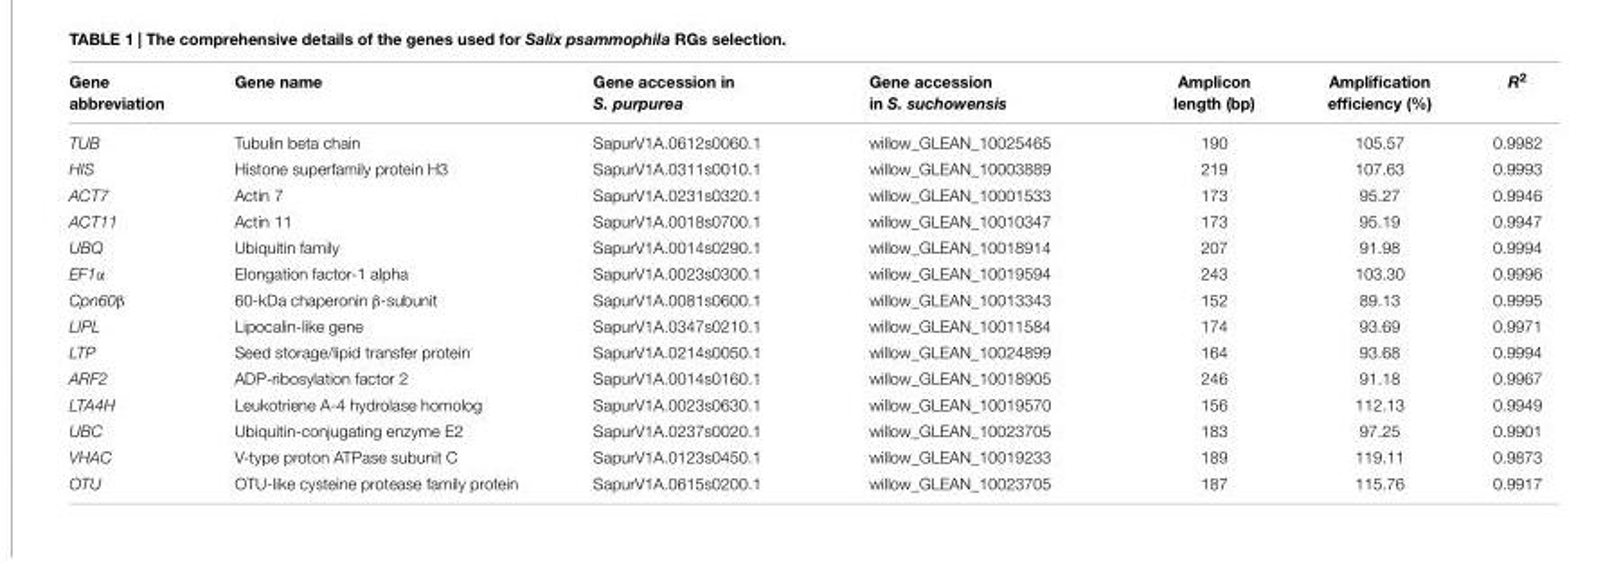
<table><thead><tr><td>Gene abbreviation</td><td>Gene name</td><td>Gene accession in S. purpurea</td><td>Gene accession in S. suchowensis</td><td>Amplicon length (bp)</td><td>Amplification efficiency (%)</td><td>R<sup>2</sup></td></tr></thead><tbody><tr><td>TUB</td><td>Tubulin beta chain</td><td>SapurV1A.0612s0060.1</td><td>willow_GLEAN_10025465</td><td>190</td><td>105.57</td><td>0.9982</td></tr><tr><td>HIS</td><td>Histone superfamily protein H3</td><td>SapurV1A.0311s0010.1</td><td>willow_GLEAN_10003889</td><td>219</td><td>107.63</td><td>0.9993</td></tr><tr><td>ACT7</td><td>Actin 7</td><td>SapurV1A.0231s0320.1</td><td>willow_GLEAN_10001533</td><td>173</td><td>95.27</td><td>0.9946</td></tr><tr><td>ACT11</td><td>Actin 11</td><td>SapurV1A.0018s0700.1</td><td>willow_GLEAN_10010347</td><td>173</td><td>95.19</td><td>0.9947</td></tr><tr><td>UBQ</td><td>Ubiquitin family</td><td>SapurV1A.0014s0290.1</td><td>willow_GLEAN_10018914</td><td>207</td><td>91.98</td><td>0.9994</td></tr><tr><td>EF1α</td><td>Elongation factor-1 alpha</td><td>SapurV1A.0023s0300.1</td><td>willow_GLEAN_10019594</td><td>243</td><td>103.30</td><td>0.9996</td></tr><tr><td>Cpn60β</td><td>60-kDa chaperonin β-subunit</td><td>SapurV1A.0081s0600.1</td><td>willow_GLEAN_10013343</td><td>152</td><td>89.13</td><td>0.9995</td></tr><tr><td>LIPL</td><td>Lipocalin-like gene</td><td>SapurV1A.0347s0210.1</td><td>willow_GLEAN_10011584</td><td>174</td><td>93.69</td><td>0.9971</td></tr><tr><td>LTP</td><td>Seed storage/lipid transfer protein</td><td>SapurV1A.0214s0050.1</td><td>willow_GLEAN_10024899</td><td>164</td><td>93.68</td><td>0.9994</td></tr><tr><td>ARF2</td><td>ADP-ribosylation factor 2</td><td>SapurV1A.0014s0160.1</td><td>willow_GLEAN_10018905</td><td>246</td><td>91.18</td><td>0.9967</td></tr><tr><td>LTA4H</td><td>Leukotriene A-4 hydrolase homolog</td><td>SapurV1A.0023s0630.1</td><td>willow_GLEAN_10019570</td><td>156</td><td>112.13</td><td>0.9949</td></tr><tr><td>UBC</td><td>Ubiquitin-conjugating enzyme E2</td><td>SapurV1A.0237s0020.1</td><td>willow_GLEAN_10023705</td><td>183</td><td>97.25</td><td>0.9901</td></tr><tr><td>VHAC</td><td>V-type proton ATPase subunit C</td><td>SapurV1A.0123s0450.1</td><td>willow_GLEAN_10019233</td><td>189</td><td>119.11</td><td>0.9873</td></tr><tr><td>OTU</td><td>OTU-like cysteine protease family protein</td><td>SapurV1A.0615s0200.1</td><td>willow_GLEAN_10023705</td><td>187</td><td>115.76</td><td>0.9917</td></tr></tbody></table>